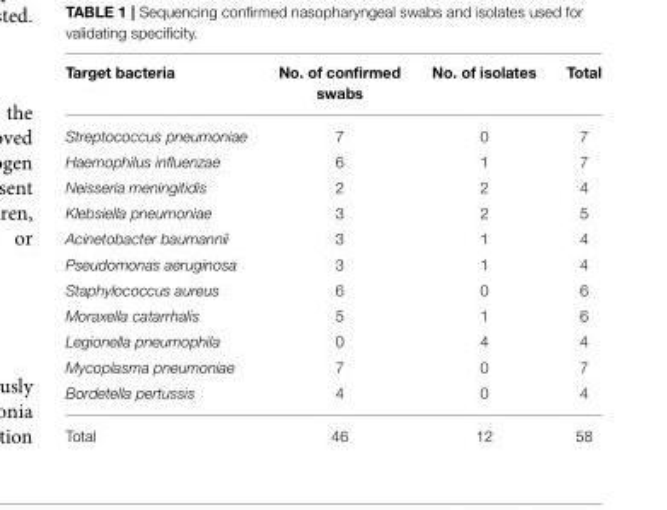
<table><thead><tr><td>Target bacteria</td><td>No. of confirmed swabs</td><td>No. of isolates</td><td>Total</td></tr></thead><tbody><tr><td>Streptococcus pneumoniae</td><td>7</td><td>0</td><td>7</td></tr><tr><td>Haemophilus influenzae</td><td>6</td><td>1</td><td>7</td></tr><tr><td>Neisseria meningitidis</td><td>2</td><td>2</td><td>4</td></tr><tr><td>Klebsiella pneumoniae</td><td>3</td><td>2</td><td>5</td></tr><tr><td>Acinetobacter baumannii</td><td>3</td><td>1</td><td>4</td></tr><tr><td>Pseudomonas aeruginosa</td><td>3</td><td>1</td><td>4</td></tr><tr><td>Staphylococcus aureus</td><td>6</td><td>0</td><td>6</td></tr><tr><td>Moraxella catarrhalis</td><td>5</td><td>1</td><td>6</td></tr><tr><td>Legionella pneumophila</td><td>0</td><td>4</td><td>4</td></tr><tr><td>Mycoplasma pneumoniae</td><td>7</td><td>0</td><td>7</td></tr><tr><td>Bordetella pertussis</td><td>4</td><td>0</td><td>4</td></tr><tr><td>Total</td><td>46</td><td>12</td><td>58</td></tr></tbody></table>